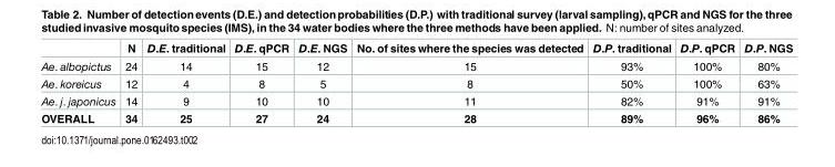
<table><thead><tr><td></td><td>N</td><td>D.E. traditional</td><td>D.E. qPCR</td><td>D.E. NGS</td><td>No. of sites where the species was detected</td><td>D.P. traditional</td><td>D.P. qPCR</td><td>D.P. NGS</td></tr></thead><tbody><tr><td>Ae. albopictus</td><td>24</td><td>14</td><td>15</td><td>12</td><td>15</td><td>93%</td><td>100%</td><td>80%</td></tr><tr><td>Ae. koreicus</td><td>12</td><td>4</td><td>8</td><td>5</td><td>8</td><td>50%</td><td>100%</td><td>63%</td></tr><tr><td>Ae. j. japonicus</td><td>14</td><td>9</td><td>10</td><td>10</td><td>11</td><td>82%</td><td>91%</td><td>91%</td></tr><tr><td>OVERALL</td><td>34</td><td>25</td><td>27</td><td>24</td><td>28</td><td>89%</td><td>96%</td><td>86%</td></tr></tbody></table>